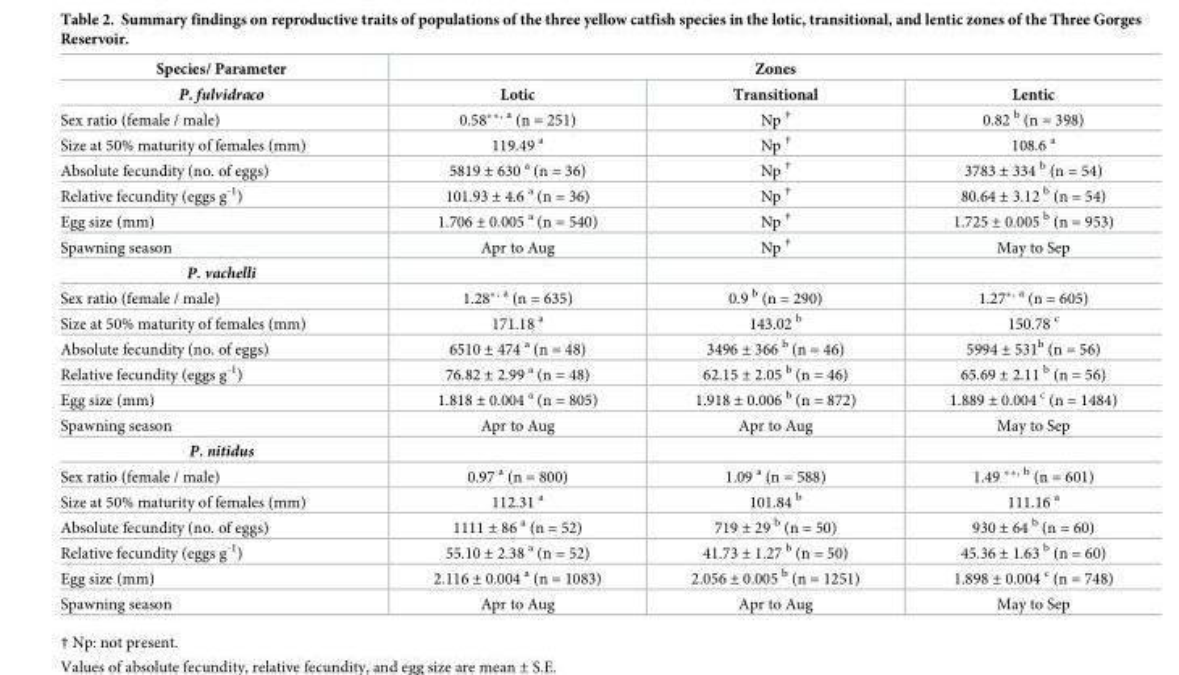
<table><thead><tr><td rowspan="2">Species/ Parameter P. fulvidraco</td><td colspan="3">Zones</td></tr><tr><td>Lotic</td><td>Transitional</td><td>Lentic</td></tr></thead><tbody><tr><td>Sex ratio (female / male)</td><td>0.58**<sup>, a</sup> (n = 251)</td><td>Np <sup>†</sup></td><td>0.82 <sup>b</sup> (n = 398)</td></tr><tr><td>Size at 50% maturity of females (mm)</td><td>119.49 <sup>a</sup></td><td>Np <sup>†</sup></td><td>108.6 <sup>a</sup></td></tr><tr><td>Absolute fecundity (no. of eggs)</td><td>5819 ± 630 <sup>a</sup> (n = 36)</td><td>Np <sup>†</sup></td><td>3783 ± 334 <sup>b</sup> (n = 54)</td></tr><tr><td>Relative fecundity (eggs g<sup>-1</sup>)</td><td>101.93 ± 4.6 <sup>a</sup> (n = 36)</td><td>Np <sup>†</sup></td><td>80.64 ± 3.12 <sup>b</sup> (n = 54)</td></tr><tr><td>Egg size (mm)</td><td>1.706 ± 0.005 <sup>a</sup> (n = 540)</td><td>Np <sup>†</sup></td><td>1.725 ± 0.005 <sup>b</sup> (n = 953)</td></tr><tr><td>Spawning season</td><td>Apr to Aug</td><td>Np <sup>†</sup></td><td>May to Sep</td></tr><tr><td colspan="4">P. vachelli</td></tr><tr><td>Sex ratio (female / male)</td><td>1.28*<sup>, a</sup> (n = 635)</td><td>0.9 <sup>b</sup> (n = 290)</td><td>1.27*<sup>, a</sup> (n = 605)</td></tr><tr><td>Size at 50% maturity of females (mm)</td><td>171.18 <sup>a</sup></td><td>143.02 <sup>b</sup></td><td>150.78 <sup>c</sup></td></tr><tr><td>Absolute fecundity (no. of eggs)</td><td>6510 ± 474 <sup>a</sup> (n = 48)</td><td>3496 ± 366 <sup>b</sup> (n = 46)</td><td>5994 ± 531<sup>b</sup> (n = 56)</td></tr><tr><td>Relative fecundity (eggs g<sup>-1</sup>)</td><td>76.82 ± 2.99 <sup>a</sup> (n = 48)</td><td>62.15 ± 2.05 <sup>b</sup> (n = 46)</td><td>65.69 ± 2.11 <sup>b</sup> (n = 56)</td></tr><tr><td>Egg size (mm)</td><td>1.818 ± 0.004 <sup>a</sup> (n = 805)</td><td>1.918 ± 0.006 <sup>b</sup> (n = 872)</td><td>1.889 ± 0.004 <sup>c</sup> (n = 1484)</td></tr><tr><td>Spawning season</td><td>Apr to Aug</td><td>Apr to Aug</td><td>May to Sep</td></tr><tr><td colspan="4">P. nitidus</td></tr><tr><td>Sex ratio (female / male)</td><td>0.97 <sup>a</sup> (n = 800)</td><td>1.09 <sup>a</sup> (n = 588)</td><td>1.49 **<sup>, b</sup> (n = 601)</td></tr><tr><td>Size at 50% maturity of females (mm)</td><td>112.31 <sup>a</sup></td><td>101.84 <sup>b</sup></td><td>111.16 <sup>a</sup></td></tr><tr><td>Absolute fecundity (no. of eggs)</td><td>1111 ± 86 <sup>a</sup> (n = 52)</td><td>719 ± 29 <sup>b</sup> (n = 50)</td><td>930 ± 64 <sup>b</sup> (n = 60)</td></tr><tr><td>Relative fecundity (eggs g<sup>-1</sup>)</td><td>55.10 ± 2.38 <sup>a</sup> (n = 52)</td><td>41.73 ± 1.27 <sup>b</sup> (n = 50)</td><td>45.36 ± 1.63 <sup>b</sup> (n = 60)</td></tr><tr><td>Egg size (mm)</td><td>2.116 ± 0.004 <sup>a</sup> (n = 1083)</td><td>2.056 ± 0.005 <sup>b</sup> (n = 1251)</td><td>1.898 ± 0.004 <sup>c</sup> (n = 748)</td></tr><tr><td>Spawning season</td><td>Apr to Aug</td><td>Apr to Aug</td><td>May to Sep</td></tr></tbody></table>